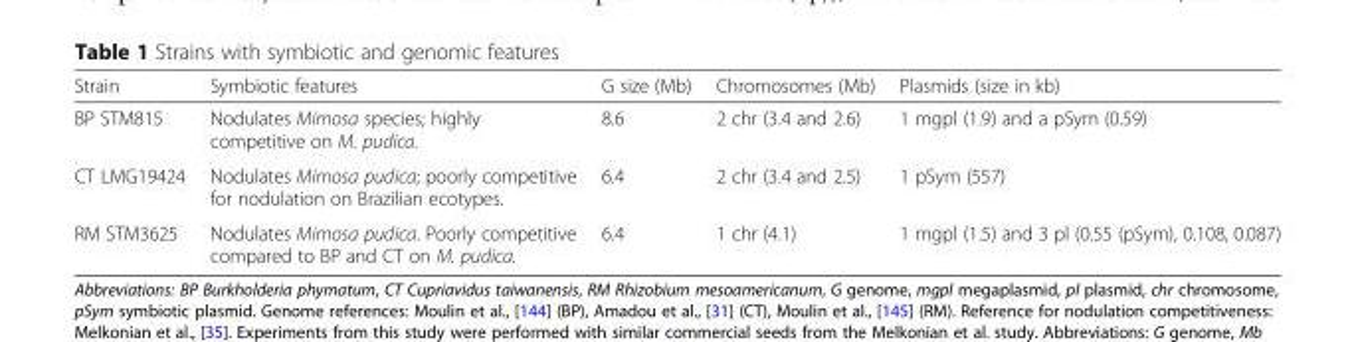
<table><thead><tr><td>Strain</td><td>Symbiotic features</td><td>G size (Mb)</td><td>Chromosomes (Mb)</td><td>Plasmids (size in kb)</td></tr></thead><tbody><tr><td>BP STM815</td><td>Nodulates Mimosa species; highly competitive on M. pudica.</td><td>8.6</td><td>2 chr (3.4 and 2.6)</td><td>1 mgpl (1.9) and a pSym (0.59)</td></tr><tr><td>CT LMG19424</td><td>Nodulates Mimosa pudica; poorly competitive for nodulation on Brazilian ecotypes.</td><td>6.4</td><td>2 chr (3.4 and 2.5)</td><td>1 pSym (557)</td></tr><tr><td>RM STM3625</td><td>Nodulates Mimosa pudica. Poorly competitive compared to BP and CT on M. pudica.</td><td>6.4</td><td>1 chr (4.1)</td><td>1 mgpl (1.5) and 3 pl (0.55 (pSym), 0.108, 0.087)</td></tr></tbody></table>